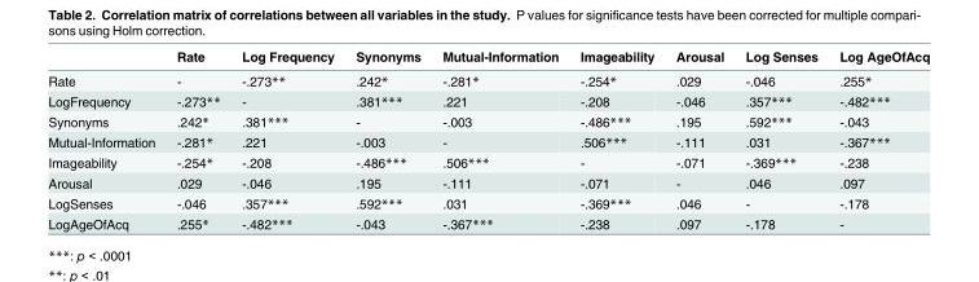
<table><thead><tr><td></td><td>Rate</td><td>Log Frequency</td><td>Synonyms</td><td>Mutual-Information</td><td>Imageability</td><td>Arousal</td><td>Log Senses</td><td>Log AgeOfAcq</td></tr></thead><tbody><tr><td>Rate</td><td>-</td><td>-.273**</td><td>.242*</td><td>-.281*</td><td>-.254*</td><td>.029</td><td>-.046</td><td>.255*</td></tr><tr><td>LogFrequency</td><td>-.273**</td><td>-</td><td>.381***</td><td>.221</td><td>-.208</td><td>-.046</td><td>.357***</td><td>-.482***</td></tr><tr><td>Synonyms</td><td>.242*</td><td>.381***</td><td>-</td><td>-.003</td><td>-.486***</td><td>.195</td><td>.592***</td><td>-.043</td></tr><tr><td>Mutual-Information</td><td>-.281*</td><td>.221</td><td>-.003</td><td>-</td><td>.506***</td><td>-.111</td><td>.031</td><td>-.367***</td></tr><tr><td>Imageability</td><td>-.254*</td><td>-.208</td><td>-.486***</td><td>.506***</td><td>-</td><td>-.071</td><td>-.369***</td><td>-.238</td></tr><tr><td>Arousal</td><td>.029</td><td>-.046</td><td>.195</td><td>-.111</td><td>-.071</td><td>-</td><td>.046</td><td>.097</td></tr><tr><td>LogSenses</td><td>-.046</td><td>.357***</td><td>.592***</td><td>.031</td><td>-.369***</td><td>.046</td><td>-</td><td>-.178</td></tr><tr><td>LogAgeOfAcq</td><td>.255*</td><td>-.482***</td><td>-.043</td><td>-.367***</td><td>-.238</td><td>.097</td><td>-.178</td><td>-</td></tr></tbody></table>